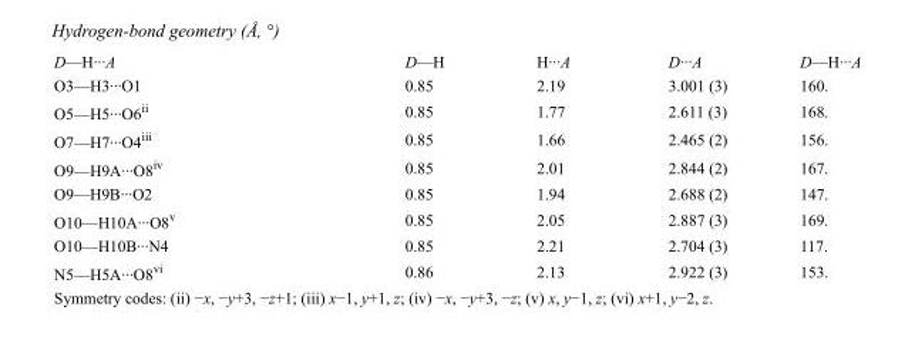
<table><tbody><tr><td>D—H···A</td><td>D—H</td><td>H···A</td><td>D···A</td><td>D—H···A</td></tr><tr><td>O3—H3···O1</td><td>0.85</td><td>2.19</td><td>3.001 (3)</td><td>160.</td></tr><tr><td>O5—H5···O6<sup>ii</sup></td><td>0.85</td><td>1.77</td><td>2.611 (3)</td><td>168.</td></tr><tr><td>O7—H7···O4<sup>iii</sup></td><td>0.85</td><td>1.66</td><td>2.465 (2)</td><td>156.</td></tr><tr><td>O9—H9A···O8<sup>iv</sup></td><td>0.85</td><td>2.01</td><td>2.844 (2)</td><td>167.</td></tr><tr><td>O9—H9B···O2</td><td>0.85</td><td>1.94</td><td>2.688 (2)</td><td>147.</td></tr><tr><td>O10—H10A···O8<sup>v</sup></td><td>0.85</td><td>2.05</td><td>2.887 (3)</td><td>169.</td></tr><tr><td>O10—H10B···N4</td><td>0.85</td><td>2.21</td><td>2.704 (3)</td><td>117.</td></tr><tr><td>N5—H5A···O8<sup>vi</sup></td><td>0.86</td><td>2.13</td><td>2.922 (3)</td><td>153.</td></tr></tbody></table>